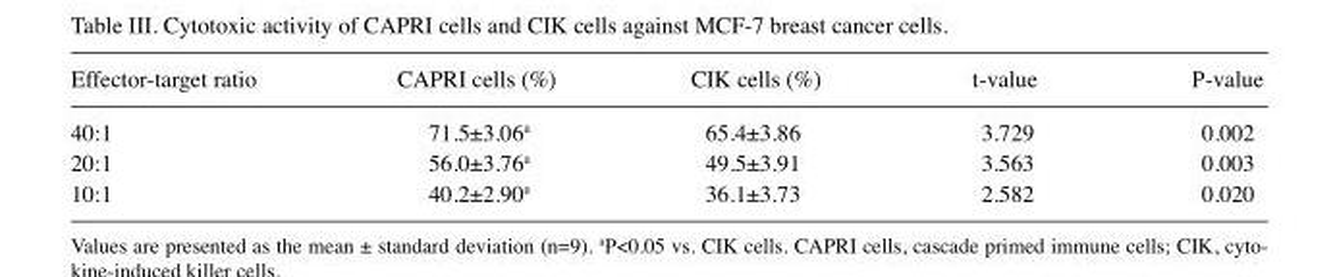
<table><thead><tr><td>Effector-target ratio</td><td>CAPRI cells (%)</td><td>CIK cells (%)</td><td>t-value</td><td>P-value</td></tr></thead><tbody><tr><td>40:1</td><td>71.5±3.06<sup>a</sup></td><td>65.4±3.86</td><td>3.729</td><td>0.002</td></tr><tr><td>20:1</td><td>56.0±3.76<sup>a</sup></td><td>49.5±3.91</td><td>3.563</td><td>0.003</td></tr><tr><td>10:1</td><td>40.2±2.90<sup>a</sup></td><td>36.1±3.73</td><td>2.582</td><td>0.020</td></tr></tbody></table>